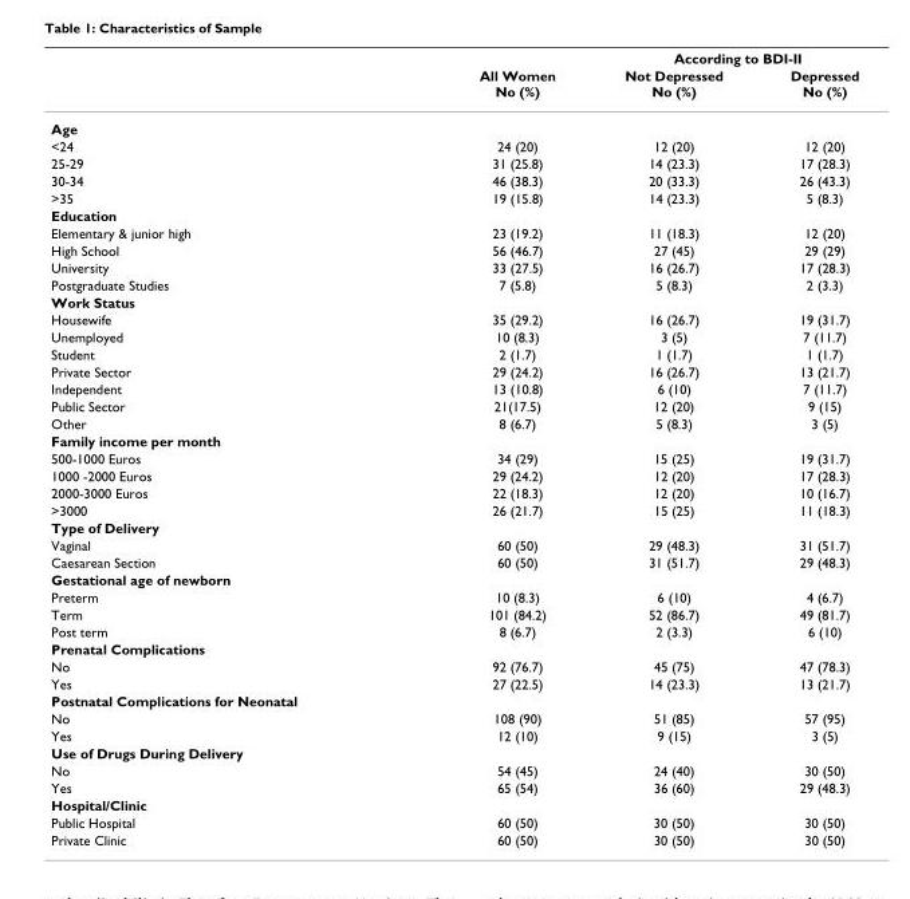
<table><thead><tr><td rowspan="2"></td><td rowspan="2">All Women No (%)</td><td colspan="2">According to BDI-II</td></tr><tr><td>Not Depressed No (%)</td><td>Depressed No (%)</td></tr></thead><tbody><tr><td colspan="4">Age</td></tr><tr><td>&lt;24</td><td>24 (20)</td><td>12 (20)</td><td>12 (20)</td></tr><tr><td>25-29</td><td>31 (25.8)</td><td>14 (23.3)</td><td>17 (28.3)</td></tr><tr><td>30-34</td><td>46 (38.3)</td><td>20 (33.3)</td><td>26 (43.3)</td></tr><tr><td>&gt;35</td><td>19 (15.8)</td><td>14 (23.3)</td><td>5 (8.3)</td></tr><tr><td colspan="4">Education</td></tr><tr><td>Elementary &amp; junior high</td><td>23 (19.2)</td><td>11 (18.3)</td><td>12 (20)</td></tr><tr><td>High School</td><td>56 (46.7)</td><td>27 (45)</td><td>29 (29)</td></tr><tr><td>University</td><td>33 (27.5)</td><td>16 (26.7)</td><td>17 (28.3)</td></tr><tr><td>Postgraduate Studies</td><td>7 (5.8)</td><td>5 (8.3)</td><td>2 (3.3)</td></tr><tr><td colspan="4">Work Status</td></tr><tr><td>Housewife</td><td>35 (29.2)</td><td>16 (26.7)</td><td>19 (31.7)</td></tr><tr><td>Unemployed</td><td>10 (8.3)</td><td>3 (5)</td><td>7 (11.7)</td></tr><tr><td>Student</td><td>2 (1.7)</td><td>1 (1.7)</td><td>1 (1.7)</td></tr><tr><td>Private Sector</td><td>29 (24.2)</td><td>16 (26.7)</td><td>13 (21.7)</td></tr><tr><td>Independent</td><td>13 (10.8)</td><td>6 (10)</td><td>7 (11.7)</td></tr><tr><td>Public Sector</td><td>21(17.5)</td><td>12 (20)</td><td>9 (15)</td></tr><tr><td>Other</td><td>8 (6.7)</td><td>5 (8.3)</td><td>3 (5)</td></tr><tr><td colspan="4">Family income per month</td></tr><tr><td>500-1000 Euros</td><td>34 (29)</td><td>15 (25)</td><td>19 (31.7)</td></tr><tr><td>1000 -2000 Euros</td><td>29 (24.2)</td><td>12 (20)</td><td>17 (28.3)</td></tr><tr><td>2000-3000 Euros</td><td>22 (18.3)</td><td>12 (20)</td><td>10 (16.7)</td></tr><tr><td>&gt;3000</td><td>26 (21.7)</td><td>15 (25)</td><td>11 (18.3)</td></tr><tr><td colspan="4">Type of Delivery</td></tr><tr><td>Vaginal</td><td>60 (50)</td><td>29 (48.3)</td><td>31 (51.7)</td></tr><tr><td>Caesarean Section</td><td>60 (50)</td><td>31 (51.7)</td><td>29 (48.3)</td></tr><tr><td colspan="4">Gestational age of newborn</td></tr><tr><td>Preterm</td><td>10 (8.3)</td><td>6 (10)</td><td>4 (6.7)</td></tr><tr><td>Term</td><td>101 (84.2)</td><td>52 (86.7)</td><td>49 (81.7)</td></tr><tr><td>Post term</td><td>8 (6.7)</td><td>2 (3.3)</td><td>6 (10)</td></tr><tr><td colspan="4">Prenatal Complications</td></tr><tr><td>No</td><td>92 (76.7)</td><td>45 (75)</td><td>47 (78.3)</td></tr><tr><td>Yes</td><td>27 (22.5)</td><td>14 (23.3)</td><td>13 (21.7)</td></tr><tr><td colspan="4">Postnatal Complications for Neonatal</td></tr><tr><td>No</td><td>108 (90)</td><td>51 (85)</td><td>57 (95)</td></tr><tr><td>Yes</td><td>12 (10)</td><td>9 (15)</td><td>3 (5)</td></tr><tr><td colspan="4">Use of Drugs During Delivery</td></tr><tr><td>No</td><td>54 (45)</td><td>24 (40)</td><td>30 (50)</td></tr><tr><td>Yes</td><td>65 (54)</td><td>36 (60)</td><td>29 (48.3)</td></tr><tr><td colspan="4">Hospital/Clinic</td></tr><tr><td>Public Hospital</td><td>60 (50)</td><td>30 (50)</td><td>30 (50)</td></tr><tr><td>Private Clinic</td><td>60 (50)</td><td>30 (50)</td><td>30 (50)</td></tr></tbody></table>